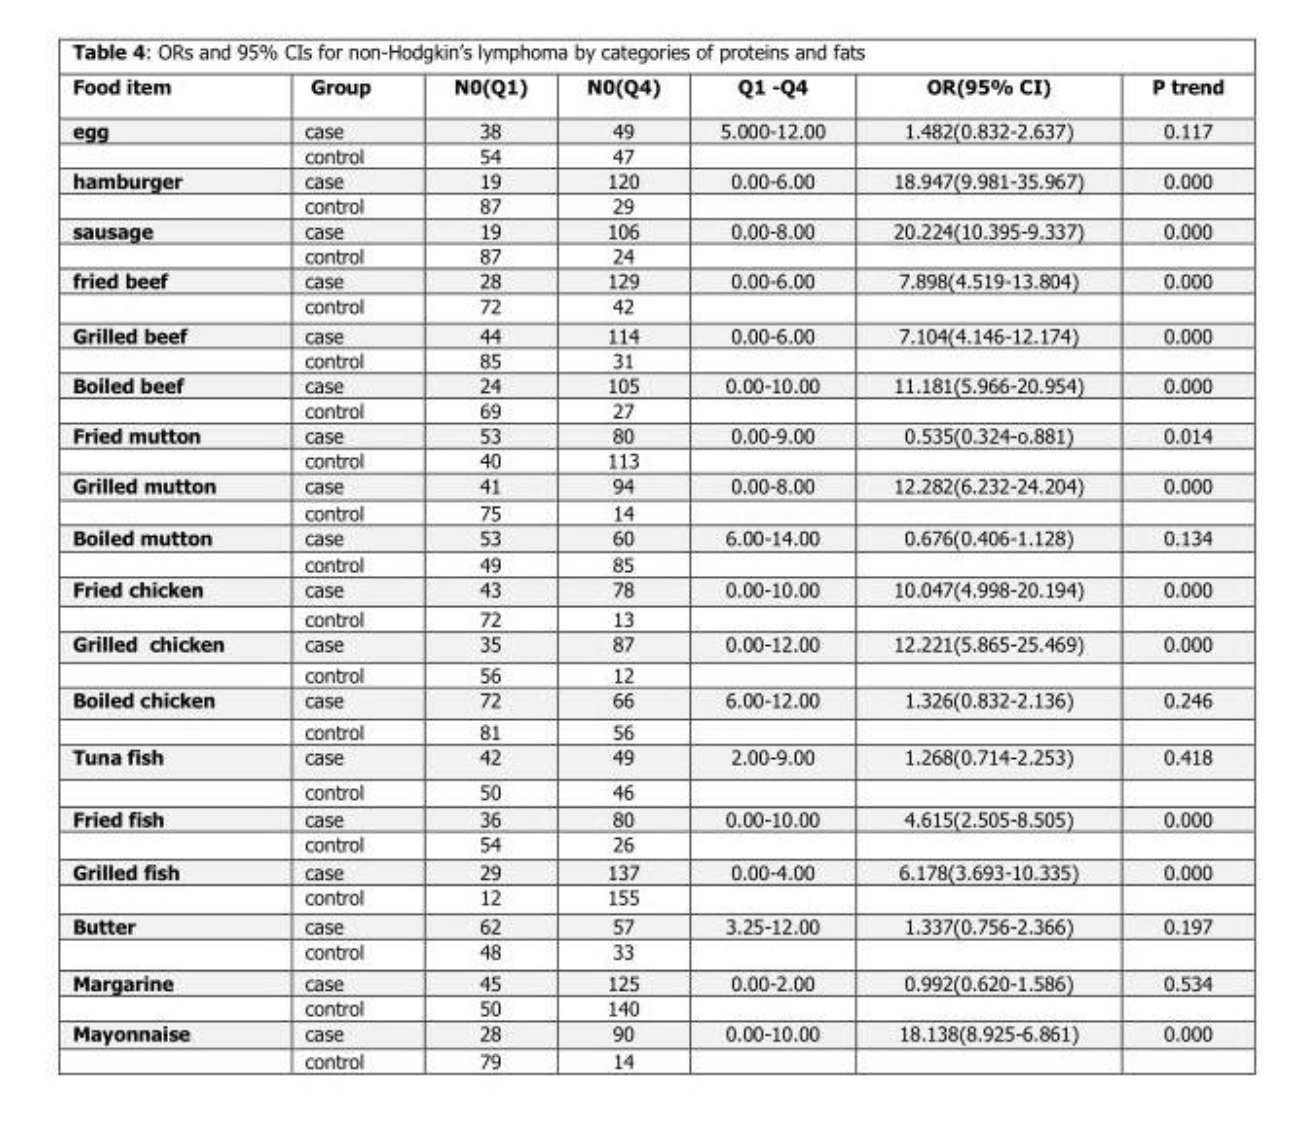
<table><thead><tr><td>Food item</td><td>Group</td><td>N0(Q1)</td><td>N0(Q4)</td><td>Q1 -Q4</td><td>OR(95% CI)</td><td>P trend</td></tr></thead><tbody><tr><td rowspan="2">egg</td><td>case</td><td>38</td><td>49</td><td>5.000-12.00</td><td>1.482(0.832-2.637)</td><td>0.117</td></tr><tr><td>control</td><td>54</td><td>47</td><td></td><td></td><td></td></tr><tr><td rowspan="2">hamburger</td><td>case</td><td>19</td><td>120</td><td>0.00-6.00</td><td>18.947(9.981-35.967)</td><td>0.000</td></tr><tr><td>control</td><td>87</td><td>29</td><td></td><td></td><td></td></tr><tr><td rowspan="2">sausage</td><td>case</td><td>19</td><td>106</td><td>0.00-8.00</td><td>20.224(10.395-9.337)</td><td>0.000</td></tr><tr><td>control</td><td>87</td><td>24</td><td></td><td></td><td></td></tr><tr><td rowspan="2">fried beef</td><td>case</td><td>28</td><td>129</td><td>0.00-6.00</td><td>7.898(4.519-13.804)</td><td>0.000</td></tr><tr><td>control</td><td>72</td><td>42</td><td></td><td></td><td></td></tr><tr><td rowspan="2">Grilled beef</td><td>case</td><td>44</td><td>114</td><td>0.00-6.00</td><td>7.104(4.146-12.174)</td><td>0.000</td></tr><tr><td>control</td><td>85</td><td>31</td><td></td><td></td><td></td></tr><tr><td rowspan="2">Boiled beef</td><td>case</td><td>24</td><td>105</td><td>0.00-10.00</td><td>11.181(5.966-20.954)</td><td>0.000</td></tr><tr><td>control</td><td>69</td><td>27</td><td></td><td></td><td></td></tr><tr><td rowspan="2">Fried mutton</td><td>case</td><td>53</td><td>80</td><td>0.00-9.00</td><td>0.535(0.324-o.881)</td><td>0.014</td></tr><tr><td>control</td><td>40</td><td>113</td><td></td><td></td><td></td></tr><tr><td rowspan="2">Grilled mutton</td><td>case</td><td>41</td><td>94</td><td>0.00-8.00</td><td>12.282(6.232-24.204)</td><td>0.000</td></tr><tr><td>control</td><td>75</td><td>14</td><td></td><td></td><td></td></tr><tr><td rowspan="2">Boiled mutton</td><td>case</td><td>53</td><td>60</td><td>6.00-14.00</td><td>0.676(0.406-1.128)</td><td>0.134</td></tr><tr><td>control</td><td>49</td><td>85</td><td></td><td></td><td></td></tr><tr><td rowspan="2">Fried chicken</td><td>case</td><td>43</td><td>78</td><td>0.00-10.00</td><td>10.047(4.998-20.194)</td><td>0.000</td></tr><tr><td>control</td><td>72</td><td>13</td><td></td><td></td><td></td></tr><tr><td rowspan="2">Grilled chicken</td><td>case</td><td>35</td><td>87</td><td>0.00-12.00</td><td>12.221(5.865-25.469)</td><td>0.000</td></tr><tr><td>control</td><td>56</td><td>12</td><td></td><td></td><td></td></tr><tr><td rowspan="2">Boiled chicken</td><td>case</td><td>72</td><td>66</td><td>6.00-12.00</td><td>1.326(0.832-2.136)</td><td>0.246</td></tr><tr><td>control</td><td>81</td><td>56</td><td></td><td></td><td></td></tr><tr><td rowspan="2">Tuna fish</td><td>case</td><td>42</td><td>49</td><td>2.00-9.00</td><td>1.268(0.714-2.253)</td><td>0.418</td></tr><tr><td>control</td><td>50</td><td>46</td><td></td><td></td><td></td></tr><tr><td rowspan="2">Fried fish</td><td>case</td><td>36</td><td>80</td><td>0.00-10.00</td><td>4.615(2.505-8.505)</td><td>0.000</td></tr><tr><td>control</td><td>54</td><td>26</td><td></td><td></td><td></td></tr><tr><td rowspan="2">Grilled fish</td><td>case</td><td>29</td><td>137</td><td>0.00-4.00</td><td>6.178(3.693-10.335)</td><td>0.000</td></tr><tr><td>control</td><td>12</td><td>155</td><td></td><td></td><td></td></tr><tr><td rowspan="2">Butter</td><td>case</td><td>62</td><td>57</td><td>3.25-12.00</td><td>1.337(0.756-2.366)</td><td>0.197</td></tr><tr><td>control</td><td>48</td><td>33</td><td></td><td></td><td></td></tr><tr><td rowspan="2">Margarine</td><td>case</td><td>45</td><td>125</td><td>0.00-2.00</td><td>0.992(0.620-1.586)</td><td>0.534</td></tr><tr><td>control</td><td>50</td><td>140</td><td></td><td></td><td></td></tr><tr><td rowspan="2">Mayonnaise</td><td>case</td><td>28</td><td>90</td><td>0.00-10.00</td><td>18.138(8.925-6.861)</td><td>0.000</td></tr><tr><td>control</td><td>79</td><td>14</td><td></td><td></td><td></td></tr></tbody></table>